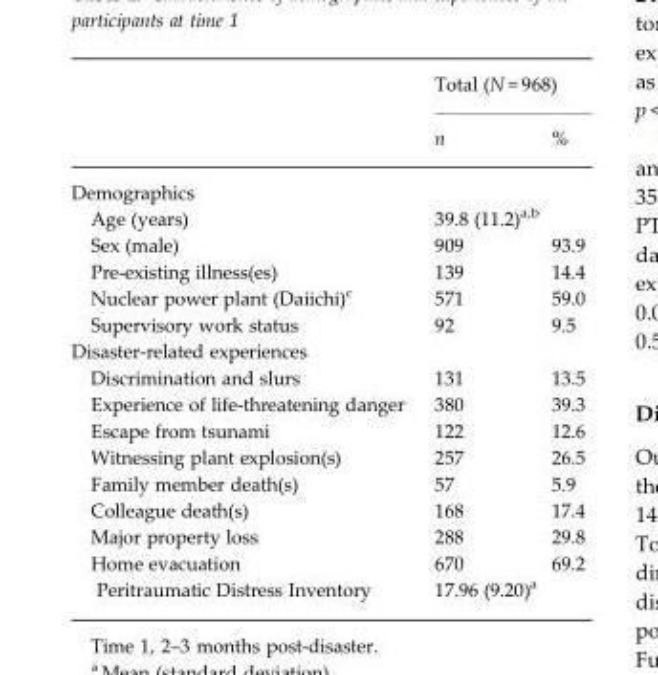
<table><thead><tr><td rowspan="2"></td><td colspan="2">Total (N = 968)</td></tr><tr><td>n</td><td>%</td></tr></thead><tbody><tr><td colspan="3">Demographics</td></tr><tr><td>Age (years)</td><td colspan="2">39.8 (11.2)<sup>a,b</sup></td></tr><tr><td>Sex (male)</td><td>909</td><td>93.9</td></tr><tr><td>Pre-existing illness(es)</td><td>139</td><td>14.4</td></tr><tr><td>Nuclear power plant (Daiichi)<sup>c</sup></td><td>571</td><td>59.0</td></tr><tr><td>Supervisory work status</td><td>92</td><td>9.5</td></tr><tr><td colspan="3">Disaster-related experiences</td></tr><tr><td>Discrimination and slurs</td><td>131</td><td>13.5</td></tr><tr><td>Experience of life-threatening danger</td><td>380</td><td>39.3</td></tr><tr><td>Escape from tsunami</td><td>122</td><td>12.6</td></tr><tr><td>Witnessing plant explosion(s)</td><td>257</td><td>26.5</td></tr><tr><td>Family member death(s)</td><td>57</td><td>5.9</td></tr><tr><td>Colleague death(s)</td><td>168</td><td>17.4</td></tr><tr><td>Major property loss</td><td>288</td><td>29.8</td></tr><tr><td>Home evacuation</td><td>670</td><td>69.2</td></tr><tr><td>Peritraumatic Distress Inventory</td><td colspan="2">17.96 (9.20)<sup>a</sup></td></tr></tbody></table>